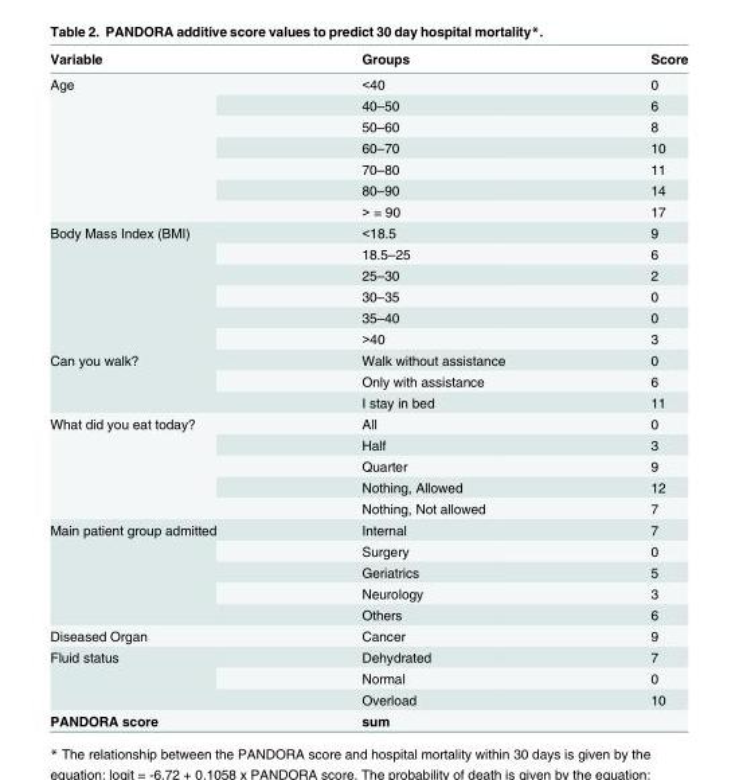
<table><thead><tr><td>Variable</td><td>Groups</td><td>Score</td></tr></thead><tbody><tr><td rowspan="7">Age</td><td>&lt;40</td><td>0</td></tr><tr><td>40–50</td><td>6</td></tr><tr><td>50–60</td><td>8</td></tr><tr><td>60–70</td><td>10</td></tr><tr><td>70–80</td><td>11</td></tr><tr><td>80–90</td><td>14</td></tr><tr><td>&gt; = 90</td><td>17</td></tr><tr><td rowspan="6">Body Mass Index (BMI)</td><td>&lt;18.5</td><td>9</td></tr><tr><td>18.5–25</td><td>6</td></tr><tr><td>25–30</td><td>2</td></tr><tr><td>30–35</td><td>0</td></tr><tr><td>35–40</td><td>0</td></tr><tr><td>&gt;40</td><td>3</td></tr><tr><td rowspan="3">Can you walk?</td><td>Walk without assistance</td><td>0</td></tr><tr><td>Only with assistance</td><td>6</td></tr><tr><td>I stay in bed</td><td>11</td></tr><tr><td rowspan="5">What did you eat today?</td><td>All</td><td>0</td></tr><tr><td>Half</td><td>3</td></tr><tr><td>Quarter</td><td>9</td></tr><tr><td>Nothing, Allowed</td><td>12</td></tr><tr><td>Nothing, Not allowed</td><td>7</td></tr><tr><td rowspan="5">Main patient group admitted</td><td>Internal</td><td>7</td></tr><tr><td>Surgery</td><td>0</td></tr><tr><td>Geriatrics</td><td>5</td></tr><tr><td>Neurology</td><td>3</td></tr><tr><td>Others</td><td>6</td></tr><tr><td>Diseased Organ</td><td>Cancer</td><td>9</td></tr><tr><td rowspan="3">Fluid status</td><td>Dehydrated</td><td>7</td></tr><tr><td>Normal</td><td>0</td></tr><tr><td>Overload</td><td>10</td></tr><tr><td>PANDORA score</td><td>sum</td><td></td></tr></tbody></table>